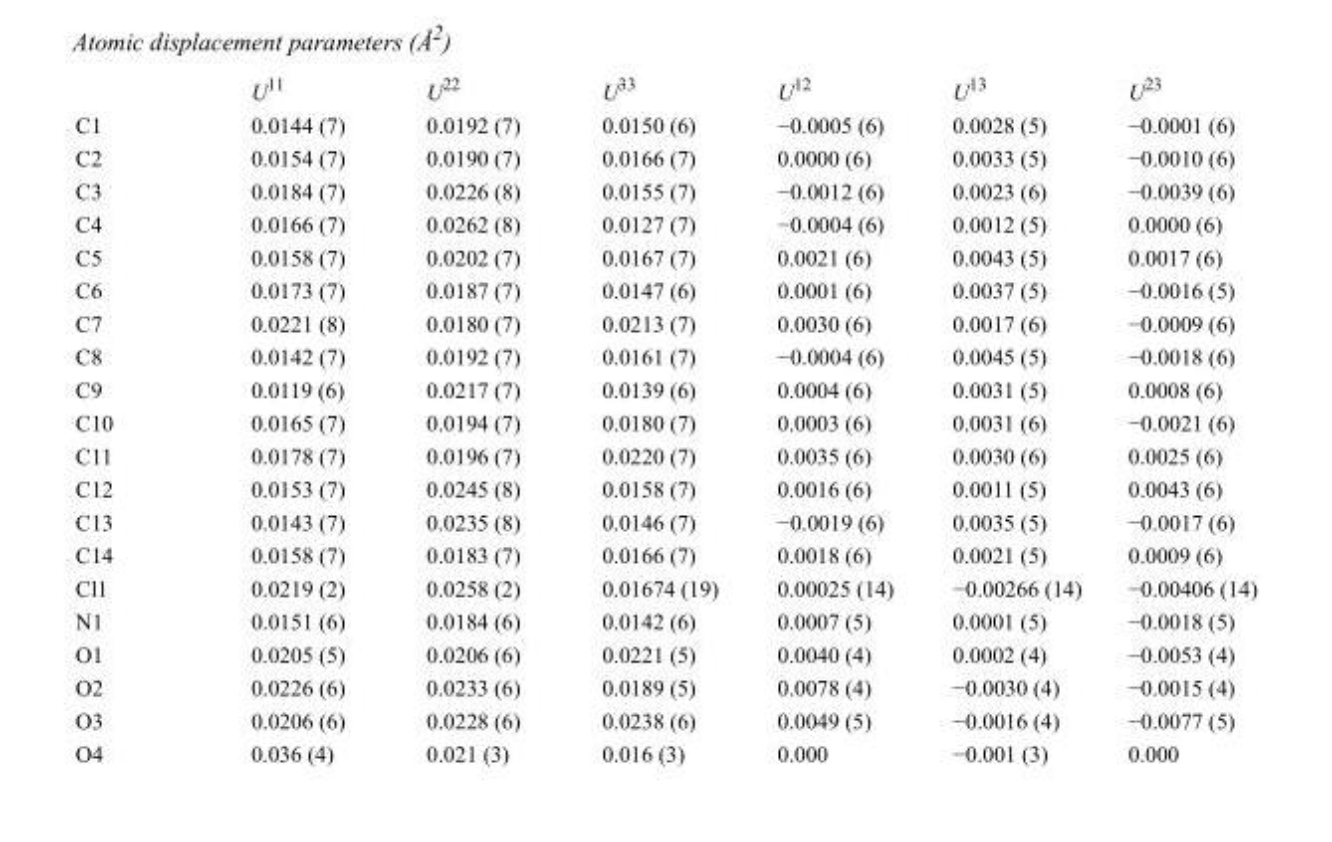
<table><thead><tr><td></td><td>U<sup>11</sup></td><td>U<sup>22</sup></td><td>U<sup>33</sup></td><td>U<sup>12</sup></td><td>U<sup>13</sup></td><td>U<sup>23</sup></td></tr></thead><tbody><tr><td>C1</td><td>0.0144 (7)</td><td>0.0192 (7)</td><td>0.0150 (6)</td><td>−0.0005 (6)</td><td>0.0028 (5)</td><td>−0.0001 (6)</td></tr><tr><td>C2</td><td>0.0154 (7)</td><td>0.0190 (7)</td><td>0.0166 (7)</td><td>0.0000 (6)</td><td>0.0033 (5)</td><td>−0.0010 (6)</td></tr><tr><td>C3</td><td>0.0184 (7)</td><td>0.0226 (8)</td><td>0.0155 (7)</td><td>−0.0012 (6)</td><td>0.0023 (6)</td><td>−0.0039 (6)</td></tr><tr><td>C4</td><td>0.0166 (7)</td><td>0.0262 (8)</td><td>0.0127 (7)</td><td>−0.0004 (6)</td><td>0.0012 (5)</td><td>0.0000 (6)</td></tr><tr><td>C5</td><td>0.0158 (7)</td><td>0.0202 (7)</td><td>0.0167 (7)</td><td>0.0021 (6)</td><td>0.0043 (5)</td><td>0.0017 (6)</td></tr><tr><td>C6</td><td>0.0173 (7)</td><td>0.0187 (7)</td><td>0.0147 (6)</td><td>0.0001 (6)</td><td>0.0037 (5)</td><td>−0.0016 (5)</td></tr><tr><td>C7</td><td>0.0221 (8)</td><td>0.0180 (7)</td><td>0.0213 (7)</td><td>0.0030 (6)</td><td>0.0017 (6)</td><td>−0.0009 (6)</td></tr><tr><td>C8</td><td>0.0142 (7)</td><td>0.0192 (7)</td><td>0.0161 (7)</td><td>−0.0004 (6)</td><td>0.0045 (5)</td><td>−0.0018 (6)</td></tr><tr><td>C9</td><td>0.0119 (6)</td><td>0.0217 (7)</td><td>0.0139 (6)</td><td>0.0004 (6)</td><td>0.0031 (5)</td><td>0.0008 (6)</td></tr><tr><td>C10</td><td>0.0165 (7)</td><td>0.0194 (7)</td><td>0.0180 (7)</td><td>0.0003 (6)</td><td>0.0031 (6)</td><td>−0.0021 (6)</td></tr><tr><td>C11</td><td>0.0178 (7)</td><td>0.0196 (7)</td><td>0.0220 (7)</td><td>0.0035 (6)</td><td>0.0030 (6)</td><td>0.0025 (6)</td></tr><tr><td>C12</td><td>0.0153 (7)</td><td>0.0245 (8)</td><td>0.0158 (7)</td><td>0.0016 (6)</td><td>0.0011 (5)</td><td>0.0043 (6)</td></tr><tr><td>C13</td><td>0.0143 (7)</td><td>0.0235 (8)</td><td>0.0146 (7)</td><td>−0.0019 (6)</td><td>0.0035 (5)</td><td>−0.0017 (6)</td></tr><tr><td>C14</td><td>0.0158 (7)</td><td>0.0183 (7)</td><td>0.0166 (7)</td><td>0.0018 (6)</td><td>0.0021 (5)</td><td>0.0009 (6)</td></tr><tr><td>Cl1</td><td>0.0219 (2)</td><td>0.0258 (2)</td><td>0.01674 (19)</td><td>0.00025 (14)</td><td>−0.00266 (14)</td><td>−0.00406 (14)</td></tr><tr><td>N1</td><td>0.0151 (6)</td><td>0.0184 (6)</td><td>0.0142 (6)</td><td>0.0007 (5)</td><td>0.0001 (5)</td><td>−0.0018 (5)</td></tr><tr><td>O1</td><td>0.0205 (5)</td><td>0.0206 (6)</td><td>0.0221 (5)</td><td>0.0040 (4)</td><td>0.0002 (4)</td><td>−0.0053 (4)</td></tr><tr><td>O2</td><td>0.0226 (6)</td><td>0.0233 (6)</td><td>0.0189 (5)</td><td>0.0078 (4)</td><td>−0.0030 (4)</td><td>−0.0015 (4)</td></tr><tr><td>O3</td><td>0.0206 (6)</td><td>0.0228 (6)</td><td>0.0238 (6)</td><td>0.0049 (5)</td><td>−0.0016 (4)</td><td>−0.0077 (5)</td></tr><tr><td>O4</td><td>0.036 (4)</td><td>0.021 (3)</td><td>0.016 (3)</td><td>0.000</td><td>−0.001 (3)</td><td>0.000</td></tr></tbody></table>